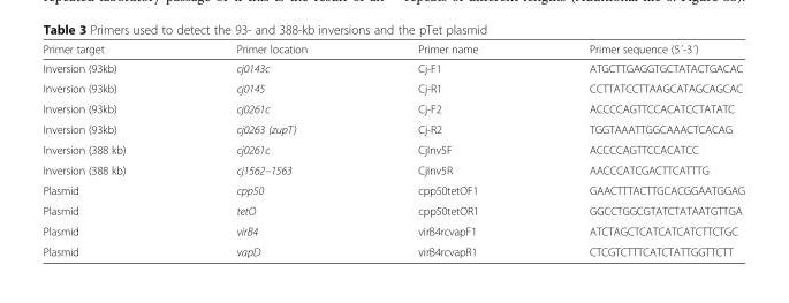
<table><thead><tr><td>Primer target</td><td>Primer location</td><td>Primer name</td><td>Primer sequence (5´-3´)</td></tr></thead><tbody><tr><td>Inversion (93kb)</td><td>cj0143c</td><td>Cj-F1</td><td>ATGCTTGAGGTGCTATACTGACAC</td></tr><tr><td>Inversion (93kb)</td><td>cj0145</td><td>Cj-R1</td><td>CCTTATCCTTAAGCATAGCAGCAC</td></tr><tr><td>Inversion (93kb)</td><td>cj0261c</td><td>Cj-F2</td><td>ACCCCAGTTCCACATCCTATATC</td></tr><tr><td>Inversion (93kb)</td><td>cj0263 (zupT)</td><td>Cj-R2</td><td>TGGTAAATTGGCAAACTCACAG</td></tr><tr><td>Inversion (388 kb)</td><td>cj0261c</td><td>CjInv5F</td><td>ACCCCAGTTCCACATCC</td></tr><tr><td>Inversion (388 kb)</td><td>cj1562–1563</td><td>CjInv5R</td><td>AACCCATCGACTTCATTTG</td></tr><tr><td>Plasmid</td><td>cpp50</td><td>cpp50tetOF1</td><td>GAACTTTACTTGCACGGAATGGAG</td></tr><tr><td>Plasmid</td><td>tetO</td><td>cpp50tetOR1</td><td>GGCCTGGCGTATCTATAATGTTGA</td></tr><tr><td>Plasmid</td><td>virB4</td><td>virB4rcvapF1</td><td>ATCTAGCTCATCATCATCTTCTGC</td></tr><tr><td>Plasmid</td><td>vapD</td><td>virB4rcvapR1</td><td>CTCGTCTTTCATCTATTGGTTCTT</td></tr></tbody></table>